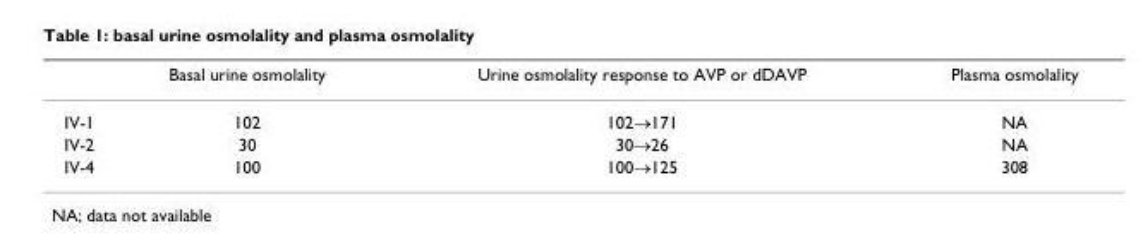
<table><thead><tr><td></td><td>Basal urine osmolality</td><td>Urine osmolality response to AVP or dDAVP</td><td>Plasma osmolality</td></tr></thead><tbody><tr><td>IV-1</td><td>102</td><td>102→171</td><td>NA</td></tr><tr><td>IV-2</td><td>30</td><td>30→26</td><td>NA</td></tr><tr><td>IV-4</td><td>100</td><td>100→125</td><td>308</td></tr></tbody></table>